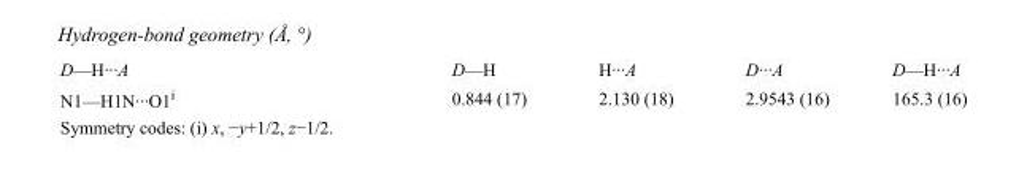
<table><tbody><tr><td>D—H···A</td><td>D—H</td><td>H···A</td><td>D···A</td><td>D—H···A</td></tr><tr><td>N1—H1N···O1<sup>i</sup></td><td>0.844 (17)</td><td>2.130 (18)</td><td>2.9543 (16)</td><td>165.3 (16)</td></tr></tbody></table>